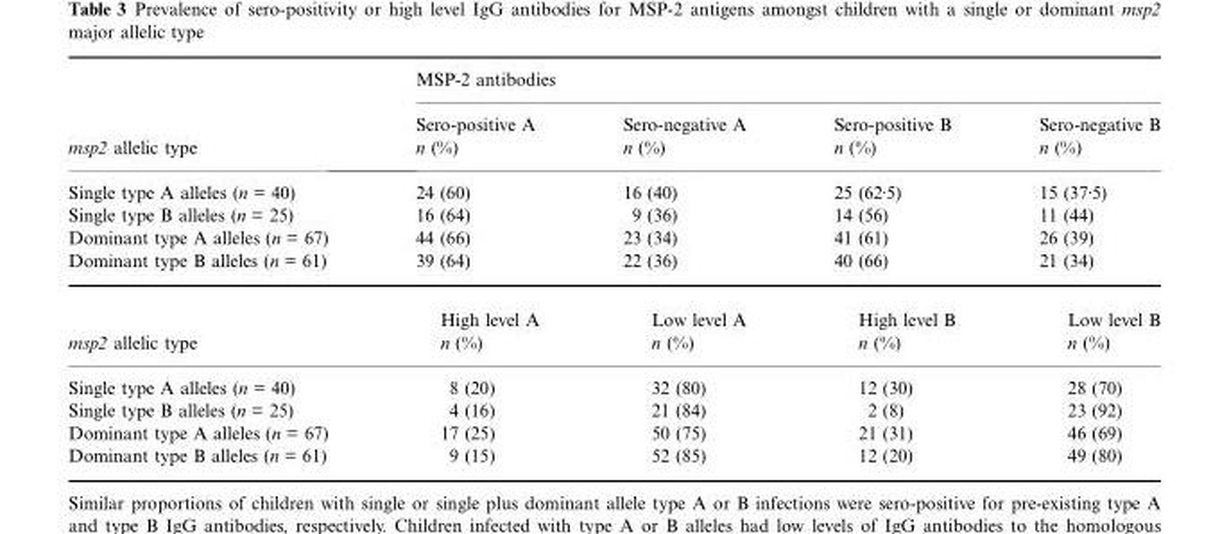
<table><thead><tr><td rowspan="2">msp2 allelic type</td><td colspan="4">MSP-2 antibodies</td></tr><tr><td>Sero-positive A n (%)</td><td>Sero-negative A n (%)</td><td>Sero-positive B n (%)</td><td>Sero-negative B n (%)</td></tr></thead><tbody><tr><td>Single type A alleles (n = 40)</td><td>24 (60)</td><td>16 (40)</td><td>25 (62Æ5)</td><td>15 (37Æ5)</td></tr><tr><td>Single type B alleles (n = 25)</td><td>16 (64)</td><td>9 (36)</td><td>14 (56)</td><td>11 (44)</td></tr><tr><td>Dominant type A alleles (n = 67)</td><td>44 (66)</td><td>23 (34)</td><td>41 (61)</td><td>26 (39)</td></tr><tr><td>Dominant type B alleles (n = 61)</td><td>39 (64)</td><td>22 (36)</td><td>40 (66)</td><td>21 (34)</td></tr><tr><td>msp2 allelic type</td><td>High level A n (%)</td><td>Low level A n (%)</td><td>High level B n (%)</td><td>Low level B n (%)</td></tr><tr><td>Single type A alleles (n = 40)</td><td>8 (20)</td><td>32 (80)</td><td>12 (30)</td><td>28 (70)</td></tr><tr><td>Single type B alleles (n = 25)</td><td>4 (16)</td><td>21 (84)</td><td>2 (8)</td><td>23 (92)</td></tr><tr><td>Dominant type A alleles (n = 67)</td><td>17 (25)</td><td>50 (75)</td><td>21 (31)</td><td>46 (69)</td></tr><tr><td>Dominant type B alleles (n = 61)</td><td>9 (15)</td><td>52 (85)</td><td>12 (20)</td><td>49 (80)</td></tr></tbody></table>